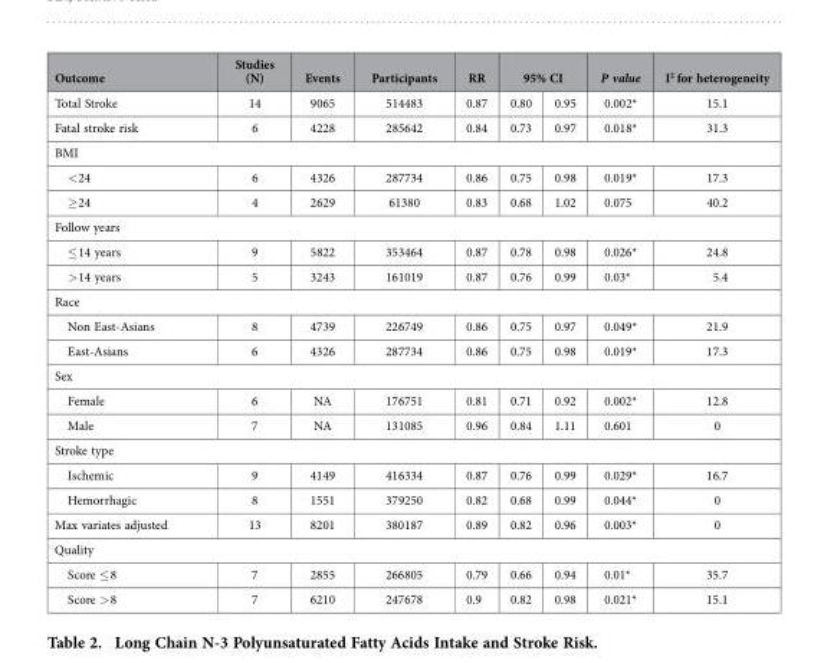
<table><thead><tr><td rowspan="2">Outcome Total Stroke</td><td rowspan="2">Studies (N) 14</td><td rowspan="2">Events 9065</td><td rowspan="2">Participants 514483</td><td rowspan="2">RR 0.87</td><td colspan="2">95% CI</td><td rowspan="2">P value 0.002*</td><td rowspan="2">I<sup>2</sup> for heterogeneity 15.1</td></tr><tr><td>0.80</td><td>0.95</td></tr></thead><tbody><tr><td>Fatal stroke risk</td><td>6</td><td>4228</td><td>285642</td><td>0.84</td><td>0.73</td><td>0.97</td><td>0.018*</td><td>31.3</td></tr><tr><td colspan="9">BMI</td></tr><tr><td>&lt; 24</td><td>6</td><td>4326</td><td>287734</td><td>0.86</td><td>0.75</td><td>0.98</td><td>0.019*</td><td>17.3</td></tr><tr><td>≥ 24</td><td>4</td><td>2629</td><td>61380</td><td>0.83</td><td>0.68</td><td>1.02</td><td>0.075</td><td>40.2</td></tr><tr><td colspan="9">Follow years</td></tr><tr><td>≤ 14 years</td><td>9</td><td>5822</td><td>353464</td><td>0.87</td><td>0.78</td><td>0.98</td><td>0.026*</td><td>24.8</td></tr><tr><td>&gt; 14 years</td><td>5</td><td>3243</td><td>161019</td><td>0.87</td><td>0.76</td><td>0.99</td><td>0.03*</td><td>5.4</td></tr><tr><td colspan="9">Race</td></tr><tr><td>Non East-Asians</td><td>8</td><td>4739</td><td>226749</td><td>0.86</td><td>0.75</td><td>0.97</td><td>0.049*</td><td>21.9</td></tr><tr><td>East-Asians</td><td>6</td><td>4326</td><td>287734</td><td>0.86</td><td>0.75</td><td>0.98</td><td>0.019*</td><td>17.3</td></tr><tr><td colspan="9">Sex</td></tr><tr><td>Female</td><td>6</td><td>NA</td><td>176751</td><td>0.81</td><td>0.71</td><td>0.92</td><td>0.002*</td><td>12.8</td></tr><tr><td>Male</td><td>7</td><td>NA</td><td>131085</td><td>0.96</td><td>0.84</td><td>1.11</td><td>0.601</td><td>0</td></tr><tr><td colspan="9">Stroke type</td></tr><tr><td>Ischemic</td><td>9</td><td>4149</td><td>416334</td><td>0.87</td><td>0.76</td><td>0.99</td><td>0.029*</td><td>16.7</td></tr><tr><td>Hemorrhagic</td><td>8</td><td>1551</td><td>379250</td><td>0.82</td><td>0.68</td><td>0.99</td><td>0.044*</td><td>0</td></tr><tr><td>Max variates adjusted</td><td>13</td><td>8201</td><td>380187</td><td>0.89</td><td>0.82</td><td>0.96</td><td>0.003*</td><td>0</td></tr><tr><td colspan="9">Quality</td></tr><tr><td>Score ≤ 8</td><td>7</td><td>2855</td><td>266805</td><td>0.79</td><td>0.66</td><td>0.94</td><td>0.01*</td><td>35.7</td></tr><tr><td>Score &gt; 8</td><td>7</td><td>6210</td><td>247678</td><td>0.9</td><td>0.82</td><td>0.98</td><td>0.021*</td><td>15.1</td></tr></tbody></table>